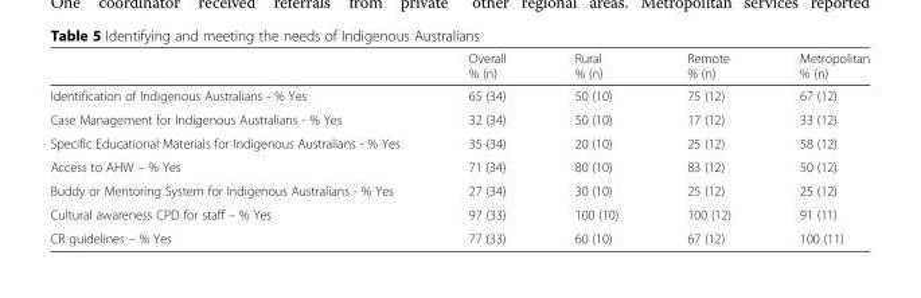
<table><thead><tr><td></td><td>Overall % (n)</td><td>Rural % (n)</td><td>Remote % (n)</td><td>Metropolitan % (n)</td></tr></thead><tbody><tr><td>Identification of Indigenous Australians - % Yes</td><td>65 (34)</td><td>50 (10)</td><td>75 (12)</td><td>67 (12)</td></tr><tr><td>Case Management for Indigenous Australians - % Yes</td><td>32 (34)</td><td>50 (10)</td><td>17 (12)</td><td>33 (12)</td></tr><tr><td>Specific Educational Materials for Indigenous Australians - % Yes</td><td>35 (34)</td><td>20 (10)</td><td>25 (12)</td><td>58 (12)</td></tr><tr><td>Access to AHW – % Yes</td><td>71 (34)</td><td>80 (10)</td><td>83 (12)</td><td>50 (12)</td></tr><tr><td>Buddy or Mentoring System for Indigenous Australians - % Yes</td><td>27 (34)</td><td>30 (10)</td><td>25 (12)</td><td>25 (12)</td></tr><tr><td>Cultural awareness CPD for staff – % Yes</td><td>97 (33)</td><td>100 (10)</td><td>100 (12)</td><td>91 (11)</td></tr><tr><td>CR guidelines – % Yes</td><td>77 (33)</td><td>60 (10)</td><td>67 (12)</td><td>100 (11)</td></tr></tbody></table>